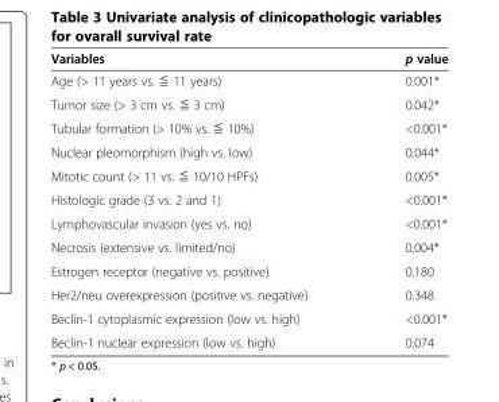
<table><thead><tr><td>Variables</td><td>p value</td></tr></thead><tbody><tr><td>Age (&gt; 11 years vs. ≦ 11 years)</td><td>0.001*</td></tr><tr><td>Tumor size (&gt; 3 cm vs. ≦ 3 cm)</td><td>0.042*</td></tr><tr><td>Tubular formation (&gt; 10% vs. ≦ 10%)</td><td>&lt;0.001*</td></tr><tr><td>Nuclear pleomorphism (high vs. low)</td><td>0.044*</td></tr><tr><td>Mitotic count (&gt; 11 vs. ≦ 10/10 HPFs)</td><td>0.005*</td></tr><tr><td>Histologic grade (3 vs. 2 and 1)</td><td>&lt;0.001*</td></tr><tr><td>Lymphovascular invasion (yes vs. no)</td><td>&lt;0.001*</td></tr><tr><td>Necrosis (extensive vs. limited/no)</td><td>0.004*</td></tr><tr><td>Estrogen receptor (negative vs. positive)</td><td>0.180</td></tr><tr><td>Her2/neu overexpression (positive vs. negative)</td><td>0.348</td></tr><tr><td>Beclin-1 cytoplasmic expression (low vs. high)</td><td>&lt;0.001*</td></tr><tr><td>Beclin-1 nuclear expression (low vs. high)</td><td>0.074</td></tr></tbody></table>